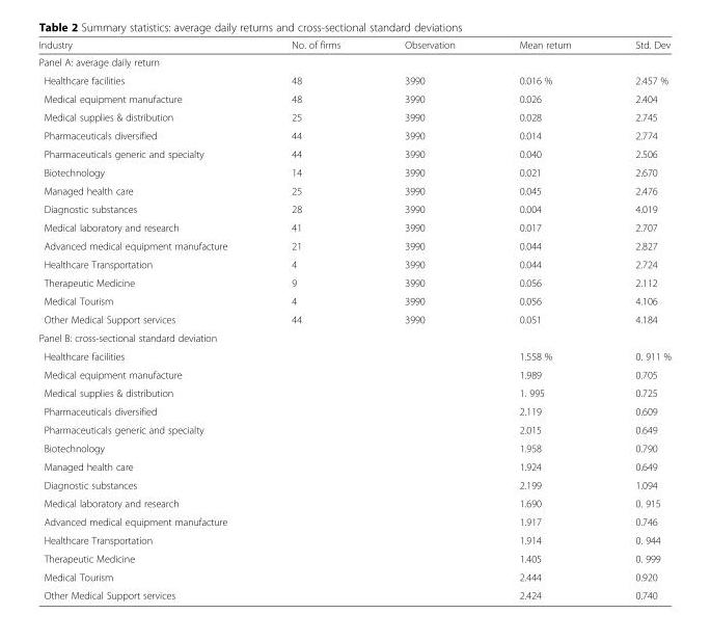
<table><thead><tr><td>Industry</td><td>No. of firms</td><td>Observation</td><td>Mean return</td><td>Std. Dev</td></tr></thead><tbody><tr><td colspan="5">Panel A: average daily return</td></tr><tr><td>Healthcare facilities</td><td>48</td><td>3990</td><td>0.016 %</td><td>2.457 %</td></tr><tr><td>Medical equipment manufacture</td><td>48</td><td>3990</td><td>0.026</td><td>2.404</td></tr><tr><td>Medical supplies &amp; distribution</td><td>25</td><td>3990</td><td>0.028</td><td>2.745</td></tr><tr><td>Pharmaceuticals diversified</td><td>44</td><td>3990</td><td>0.014</td><td>2.774</td></tr><tr><td>Pharmaceuticals generic and specialty</td><td>44</td><td>3990</td><td>0.040</td><td>2.506</td></tr><tr><td>Biotechnology</td><td>14</td><td>3990</td><td>0.021</td><td>2.670</td></tr><tr><td>Managed health care</td><td>25</td><td>3990</td><td>0.045</td><td>2.476</td></tr><tr><td>Diagnostic substances</td><td>28</td><td>3990</td><td>0.004</td><td>4.019</td></tr><tr><td>Medical laboratory and research</td><td>41</td><td>3990</td><td>0.017</td><td>2.707</td></tr><tr><td>Advanced medical equipment manufacture</td><td>21</td><td>3990</td><td>0.044</td><td>2.827</td></tr><tr><td>Healthcare Transportation</td><td>4</td><td>3990</td><td>0.044</td><td>2.724</td></tr><tr><td>Therapeutic Medicine</td><td>9</td><td>3990</td><td>0.056</td><td>2.112</td></tr><tr><td>Medical Tourism</td><td>4</td><td>3990</td><td>0.056</td><td>4.106</td></tr><tr><td>Other Medical Support services</td><td>44</td><td>3990</td><td>0.051</td><td>4.184</td></tr><tr><td colspan="5">Panel B: cross-sectional standard deviation</td></tr><tr><td>Healthcare facilities</td><td></td><td></td><td>1.558 %</td><td>0. 911 %</td></tr><tr><td>Medical equipment manufacture</td><td></td><td></td><td>1.989</td><td>0.705</td></tr><tr><td>Medical supplies &amp; distribution</td><td></td><td></td><td>1. 995</td><td>0.725</td></tr><tr><td>Pharmaceuticals diversified</td><td></td><td></td><td>2.119</td><td>0.609</td></tr><tr><td>Pharmaceuticals generic and specialty</td><td></td><td></td><td>2.015</td><td>0.649</td></tr><tr><td>Biotechnology</td><td></td><td></td><td>1.958</td><td>0.790</td></tr><tr><td>Managed health care</td><td></td><td></td><td>1.924</td><td>0.649</td></tr><tr><td>Diagnostic substances</td><td></td><td></td><td>2.199</td><td>1.094</td></tr><tr><td>Medical laboratory and research</td><td></td><td></td><td>1.690</td><td>0. 915</td></tr><tr><td>Advanced medical equipment manufacture</td><td></td><td></td><td>1.917</td><td>0.746</td></tr><tr><td>Healthcare Transportation</td><td></td><td></td><td>1.914</td><td>0. 944</td></tr><tr><td>Therapeutic Medicine</td><td></td><td></td><td>1.405</td><td>0. 999</td></tr><tr><td>Medical Tourism</td><td></td><td></td><td>2.444</td><td>0.920</td></tr><tr><td>Other Medical Support services</td><td></td><td></td><td>2.424</td><td>0.740</td></tr></tbody></table>